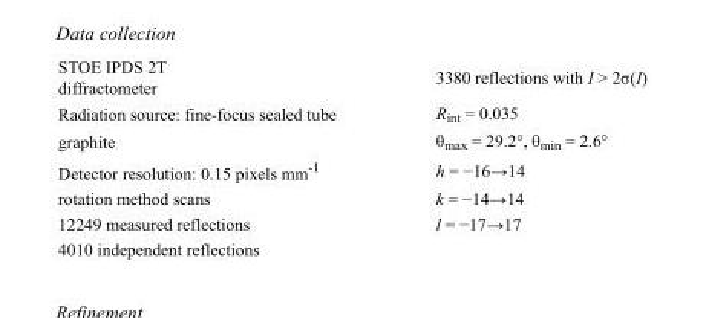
<table><tbody><tr><td>STOE IPDS 2T diffractometer</td><td>3380 reflections with I &gt; 2σ(I)</td></tr><tr><td>Radiation source: fine-focus sealed tube</td><td>R<sub>int</sub> = 0.035</td></tr><tr><td>graphite</td><td>θ<sub>max</sub> = 29.2°, θ<sub>min</sub> = 2.6°</td></tr><tr><td>Detector resolution: 0.15 pixels mm<sup>-1</sup></td><td>h = −16→14</td></tr><tr><td>rotation method scans</td><td>k = −14→14</td></tr><tr><td>12249 measured reflections</td><td>l = −17→17</td></tr><tr><td>4010 independent reflections</td><td></td></tr></tbody></table>